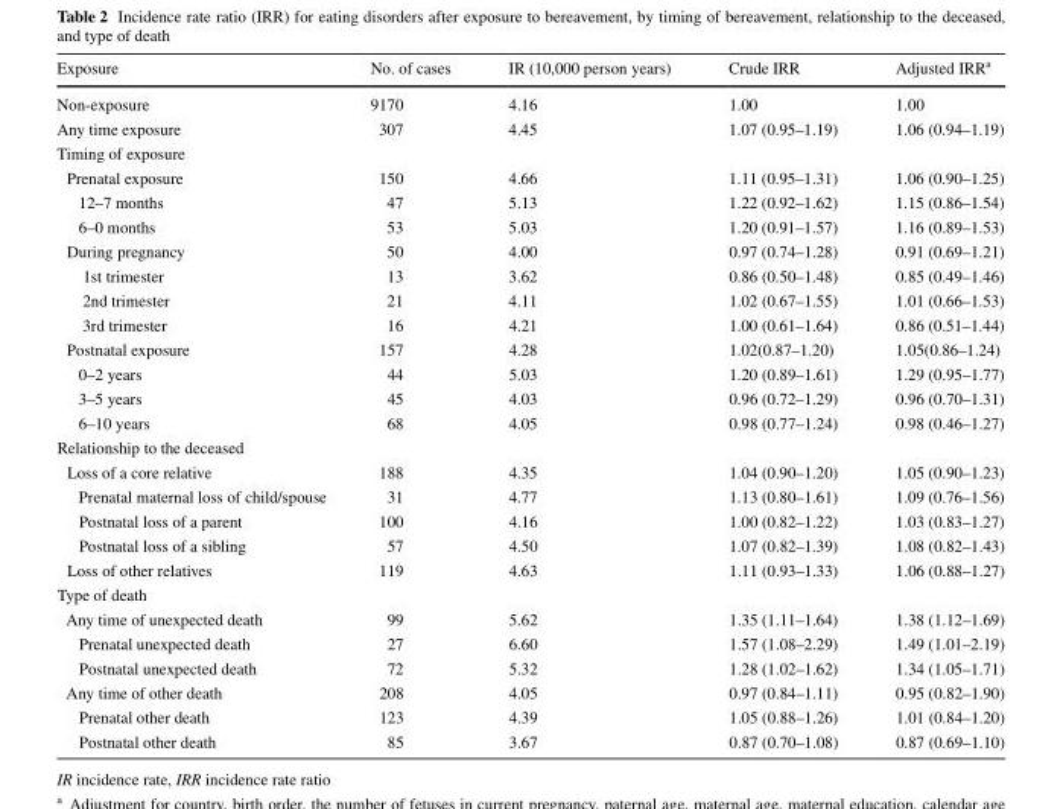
<table><thead><tr><td>Exposure</td><td>No. of cases</td><td>IR (10,000 person years)</td><td>Crude IRR</td><td>Adjusted IRR<sup>a</sup></td></tr></thead><tbody><tr><td>Non-exposure</td><td>9170</td><td>4.16</td><td>1.00</td><td>1.00</td></tr><tr><td>Any time exposure</td><td>307</td><td>4.45</td><td>1.07 (0.95–1.19)</td><td>1.06 (0.94–1.19)</td></tr><tr><td colspan="5">Timing of exposure</td></tr><tr><td>Prenatal exposure</td><td>150</td><td>4.66</td><td>1.11 (0.95–1.31)</td><td>1.06 (0.90–1.25)</td></tr><tr><td>12–7 months</td><td>47</td><td>5.13</td><td>1.22 (0.92–1.62)</td><td>1.15 (0.86–1.54)</td></tr><tr><td>6–0 months</td><td>53</td><td>5.03</td><td>1.20 (0.91–1.57)</td><td>1.16 (0.89–1.53)</td></tr><tr><td>During pregnancy</td><td>50</td><td>4.00</td><td>0.97 (0.74–1.28)</td><td>0.91 (0.69–1.21)</td></tr><tr><td>1st trimester</td><td>13</td><td>3.62</td><td>0.86 (0.50–1.48)</td><td>0.85 (0.49–1.46)</td></tr><tr><td>2nd trimester</td><td>21</td><td>4.11</td><td>1.02 (0.67–1.55)</td><td>1.01 (0.66–1.53)</td></tr><tr><td>3rd trimester</td><td>16</td><td>4.21</td><td>1.00 (0.61–1.64)</td><td>0.86 (0.51–1.44)</td></tr><tr><td>Postnatal exposure</td><td>157</td><td>4.28</td><td>1.02(0.87–1.20)</td><td>1.05(0.86–1.24)</td></tr><tr><td>0–2 years</td><td>44</td><td>5.03</td><td>1.20 (0.89–1.61)</td><td>1.29 (0.95–1.77)</td></tr><tr><td>3–5 years</td><td>45</td><td>4.03</td><td>0.96 (0.72–1.29)</td><td>0.96 (0.70–1.31)</td></tr><tr><td>6–10 years</td><td>68</td><td>4.05</td><td>0.98 (0.77–1.24)</td><td>0.98 (0.46–1.27)</td></tr><tr><td colspan="5">Relationship to the deceased</td></tr><tr><td>Loss of a core relative</td><td>188</td><td>4.35</td><td>1.04 (0.90–1.20)</td><td>1.05 (0.90–1.23)</td></tr><tr><td>Prenatal maternal loss of child/spouse</td><td>31</td><td>4.77</td><td>1.13 (0.80–1.61)</td><td>1.09 (0.76–1.56)</td></tr><tr><td>Postnatal loss of a parent</td><td>100</td><td>4.16</td><td>1.00 (0.82–1.22)</td><td>1.03 (0.83–1.27)</td></tr><tr><td>Postnatal loss of a sibling</td><td>57</td><td>4.50</td><td>1.07 (0.82–1.39)</td><td>1.08 (0.82–1.43)</td></tr><tr><td>Loss of other relatives</td><td>119</td><td>4.63</td><td>1.11 (0.93–1.33)</td><td>1.06 (0.88–1.27)</td></tr><tr><td colspan="5">Type of death</td></tr><tr><td>Any time of unexpected death</td><td>99</td><td>5.62</td><td>1.35 (1.11–1.64)</td><td>1.38 (1.12–1.69)</td></tr><tr><td>Prenatal unexpected death</td><td>27</td><td>6.60</td><td>1.57 (1.08–2.29)</td><td>1.49 (1.01–2.19)</td></tr><tr><td>Postnatal unexpected death</td><td>72</td><td>5.32</td><td>1.28 (1.02–1.62)</td><td>1.34 (1.05–1.71)</td></tr><tr><td>Any time of other death</td><td>208</td><td>4.05</td><td>0.97 (0.84–1.11)</td><td>0.95 (0.82–1.90)</td></tr><tr><td>Prenatal other death</td><td>123</td><td>4.39</td><td>1.05 (0.88–1.26)</td><td>1.01 (0.84–1.20)</td></tr><tr><td>Postnatal other death</td><td>85</td><td>3.67</td><td>0.87 (0.70–1.08)</td><td>0.87 (0.69–1.10)</td></tr></tbody></table>